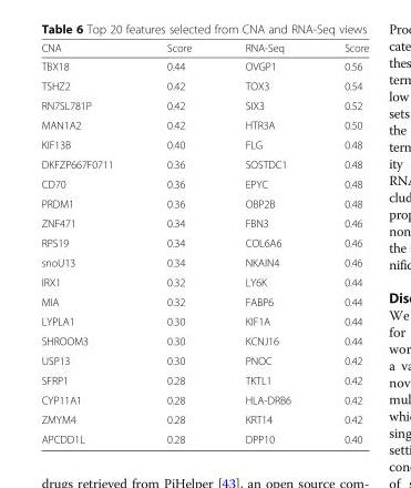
<table><thead><tr><td>CNA</td><td>Score</td><td>RNA-Seq</td><td>Score</td></tr></thead><tbody><tr><td>TBX18</td><td>0.44</td><td>OVGP1</td><td>0.56</td></tr><tr><td>TSHZ2</td><td>0.42</td><td>TOX3</td><td>0.54</td></tr><tr><td>RN7SL781P</td><td>0.42</td><td>SIX3</td><td>0.52</td></tr><tr><td>MAN1A2</td><td>0.42</td><td>HTR3A</td><td>0.50</td></tr><tr><td>KIF13B</td><td>0.40</td><td>FLG</td><td>0.48</td></tr><tr><td>DKFZP667F0711</td><td>0.36</td><td>SOSTDC1</td><td>0.48</td></tr><tr><td>CD70</td><td>0.36</td><td>EPYC</td><td>0.48</td></tr><tr><td>PRDM1</td><td>0.36</td><td>OBP2B</td><td>0.48</td></tr><tr><td>ZNF471</td><td>0.34</td><td>FBN3</td><td>0.46</td></tr><tr><td>RPS19</td><td>0.34</td><td>COL6A6</td><td>0.46</td></tr><tr><td>snoU13</td><td>0.34</td><td>NKAIN4</td><td>0.46</td></tr><tr><td>IRX1</td><td>0.32</td><td>LY6K</td><td>0.44</td></tr><tr><td>MIA</td><td>0.32</td><td>FABP6</td><td>0.44</td></tr><tr><td>LYPLA1</td><td>0.30</td><td>KIF1A</td><td>0.44</td></tr><tr><td>SHROOM3</td><td>0.30</td><td>KCNJ16</td><td>0.44</td></tr><tr><td>USP13</td><td>0.30</td><td>PNOC</td><td>0.42</td></tr><tr><td>SFRP1</td><td>0.28</td><td>TKTL1</td><td>0.42</td></tr><tr><td>CYP11A1</td><td>0.28</td><td>HLA-DRB6</td><td>0.42</td></tr><tr><td>ZMYM4</td><td>0.28</td><td>KRT14</td><td>0.42</td></tr><tr><td>APCDD1L</td><td>0.28</td><td>DPP10</td><td>0.40</td></tr></tbody></table>